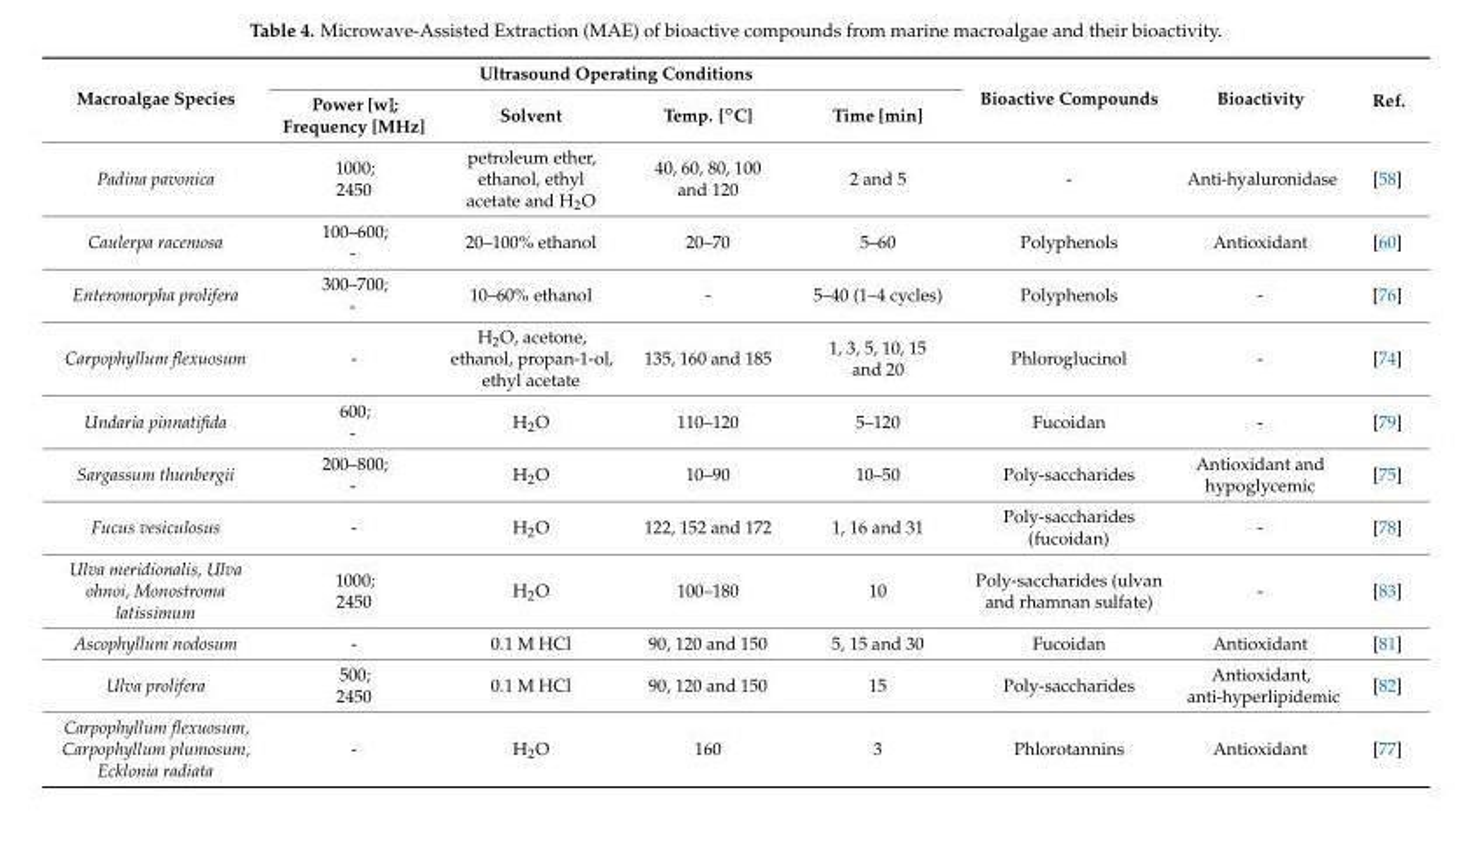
<table><thead><tr><td rowspan="2">Macroalgae Species</td><td colspan="4">Ultrasound Operating Conditions</td><td rowspan="2">Bioactive Compounds</td><td rowspan="2">Bioactivity</td><td rowspan="2">Ref.</td></tr><tr><td>Power [w]; Frequency [MHz]</td><td>Solvent</td><td>Temp. [◦C]</td><td>Time [min]</td></tr></thead><tbody><tr><td>Padina pavonica</td><td>1000; 2450</td><td>petroleum ether, ethanol, ethyl acetate and H<sub>2</sub>O</td><td>40, 60, 80, 100 and 120</td><td>2 and 5</td><td>-</td><td>Anti-hyaluronidase</td><td>[58]</td></tr><tr><td>Caulerpa racemosa</td><td>100–600; -</td><td>20–100% ethanol</td><td>20–70</td><td>5–60</td><td>Polyphenols</td><td>Antioxidant</td><td>[60]</td></tr><tr><td>Enteromorpha prolifera</td><td>300–700; -</td><td>10–60% ethanol</td><td>-</td><td>5–40 (1–4 cycles)</td><td>Polyphenols</td><td>-</td><td>[76]</td></tr><tr><td>Carpophyllum flexuosum</td><td>-</td><td>H<sub>2</sub>O, acetone, ethanol, propan-1-ol, ethyl acetate</td><td>135, 160 and 185</td><td>1, 3, 5, 10, 15 and 20</td><td>Phloroglucinol</td><td>-</td><td>[74]</td></tr><tr><td>Undaria pinnatifida</td><td>600; -</td><td>H<sub>2</sub>O</td><td>110–120</td><td>5–120</td><td>Fucoidan</td><td>-</td><td>[79]</td></tr><tr><td>Sargassum thunbergii</td><td>200–800; -</td><td>H<sub>2</sub>O</td><td>10–90</td><td>10–50</td><td>Poly-saccharides</td><td>Antioxidant and hypoglycemic</td><td>[75]</td></tr><tr><td>Fucus vesiculosus</td><td>-</td><td>H<sub>2</sub>O</td><td>122, 152 and 172</td><td>1, 16 and 31</td><td>Poly-saccharides (fucoidan)</td><td>-</td><td>[78]</td></tr><tr><td>Ulva meridionalis, Ulva ohnoi, Monostroma latissimum</td><td>1000; 2450</td><td>H<sub>2</sub>O</td><td>100–180</td><td>10</td><td>Poly-saccharides (ulvan and rhamnan sulfate)</td><td>-</td><td>[83]</td></tr><tr><td>Ascophyllum nodosum</td><td>-</td><td>0.1 M HCl</td><td>90, 120 and 150</td><td>5, 15 and 30</td><td>Fucoidan</td><td>Antioxidant</td><td>[81]</td></tr><tr><td>Ulva prolifera</td><td>500; 2450</td><td>0.1 M HCl</td><td>90, 120 and 150</td><td>15</td><td>Poly-saccharides</td><td>Antioxidant, anti-hyperlipidemic</td><td>[82]</td></tr><tr><td>Carpophyllum flexuosum, Carpophyllum plumosum, Ecklonia radiata</td><td>-</td><td>H<sub>2</sub>O</td><td>160</td><td>3</td><td>Phlorotannins</td><td>Antioxidant</td><td>[77]</td></tr></tbody></table>